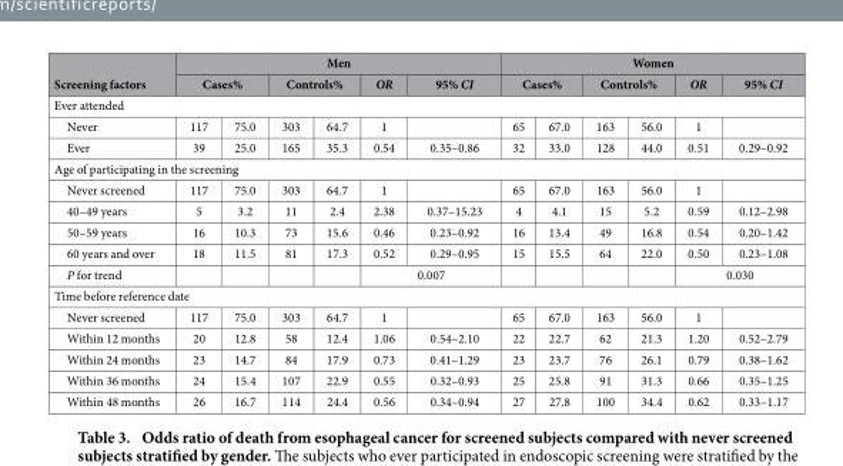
<table><thead><tr><td rowspan="2">Screening factors</td><td colspan="6">Men</td><td colspan="6">Women</td></tr><tr><td colspan="2">Cases%</td><td colspan="2">Controls%</td><td>OR</td><td>95% CI</td><td colspan="2">Cases%</td><td colspan="2">Controls%</td><td>OR</td><td>95% CI</td></tr><tr><td colspan="13">Ever attended</td></tr><tr><td>Never</td><td>117</td><td>75.0</td><td>303</td><td>64.7</td><td>1</td><td></td><td>65</td><td>67.0</td><td>163</td><td>56.0</td><td>1</td><td></td></tr></thead><tbody><tr><td>Ever</td><td>39</td><td>25.0</td><td>165</td><td>35.3</td><td>0.54</td><td>0.35–0.86</td><td>32</td><td>33.0</td><td>128</td><td>44.0</td><td>0.51</td><td>0.29–0.92</td></tr><tr><td colspan="13">Age of participating in the screening</td></tr><tr><td>Never screened</td><td>117</td><td>75.0</td><td>303</td><td>64.7</td><td>1</td><td></td><td>65</td><td>67.0</td><td>163</td><td>56.0</td><td>1</td><td></td></tr><tr><td>40–49 years</td><td>5</td><td>3.2</td><td>11</td><td>2.4</td><td>2.38</td><td>0.37–15.23</td><td>4</td><td>4.1</td><td>15</td><td>5.2</td><td>0.59</td><td>0.12–2.98</td></tr><tr><td>50–59 years</td><td>16</td><td>10.3</td><td>73</td><td>15.6</td><td>0.46</td><td>0.23–0.92</td><td>16</td><td>13.4</td><td>49</td><td>16.8</td><td>0.54</td><td>0.20–1.42</td></tr><tr><td>60 years and over</td><td>18</td><td>11.5</td><td>81</td><td>17.3</td><td>0.52</td><td>0.29–0.95</td><td>15</td><td>15.5</td><td>64</td><td>22.0</td><td>0.50</td><td>0.23–1.08</td></tr><tr><td>P for trend</td><td></td><td></td><td></td><td></td><td colspan="2">0.007</td><td></td><td></td><td></td><td></td><td colspan="2">0.030</td></tr><tr><td colspan="13">Time before reference date</td></tr><tr><td>Never screened</td><td>117</td><td>75.0</td><td>303</td><td>64.7</td><td>1</td><td></td><td>65</td><td>67.0</td><td>163</td><td>56.0</td><td>1</td><td></td></tr><tr><td>Within 12 months</td><td>20</td><td>12.8</td><td>58</td><td>12.4</td><td>1.06</td><td>0.54–2.10</td><td>22</td><td>22.7</td><td>62</td><td>21.3</td><td>1.20</td><td>0.52–2.79</td></tr><tr><td>Within 24 months</td><td>23</td><td>14.7</td><td>84</td><td>17.9</td><td>0.73</td><td>0.41–1.29</td><td>23</td><td>23.7</td><td>76</td><td>26.1</td><td>0.79</td><td>0.38–1.62</td></tr><tr><td>Within 36 months</td><td>24</td><td>15.4</td><td>107</td><td>22.9</td><td>0.55</td><td>0.32–0.93</td><td>25</td><td>25.8</td><td>91</td><td>31.3</td><td>0.66</td><td>0.35–1.25</td></tr><tr><td>Within 48 months</td><td>26</td><td>16.7</td><td>114</td><td>24.4</td><td>0.56</td><td>0.34–0.94</td><td>27</td><td>27.8</td><td>100</td><td>34.4</td><td>0.62</td><td>0.33–1.17</td></tr></tbody></table>